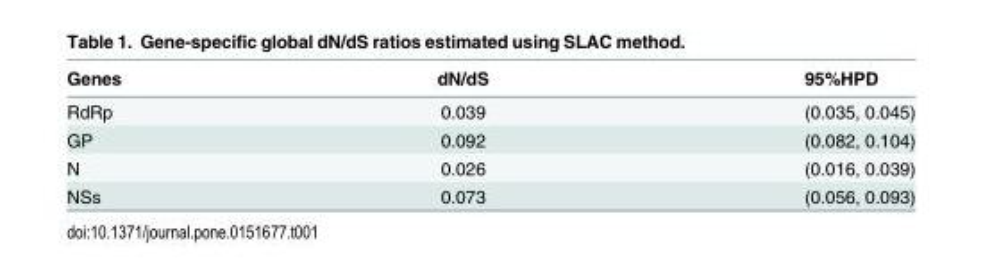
<table><thead><tr><td>Genes</td><td>dN/dS</td><td>95%HPD</td></tr></thead><tbody><tr><td>RdRp</td><td>0.039</td><td>(0.035, 0.045)</td></tr><tr><td>GP</td><td>0.092</td><td>(0.082, 0.104)</td></tr><tr><td>N</td><td>0.026</td><td>(0.016, 0.039)</td></tr><tr><td>NSs</td><td>0.073</td><td>(0.056, 0.093)</td></tr></tbody></table>